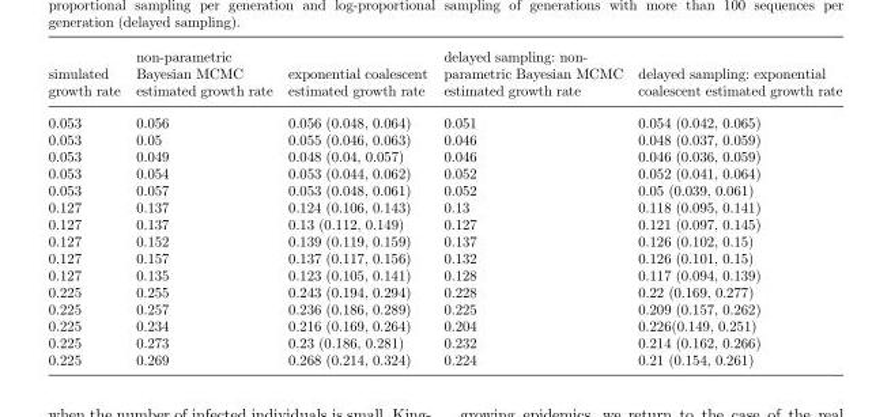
<table><thead><tr><td>simulated growth rate</td><td>non-parametric Bayesian MCMC estimated growth rate</td><td>exponential coalescent estimated growth rate</td><td>delayed sampling: non- parametric Bayesian MCMC estimated growth rate</td><td>delayed sampling: exponential coalescent estimated growth rate</td></tr></thead><tbody><tr><td>0.053</td><td>0.056</td><td>0.056 (0.048, 0.064)</td><td>0.051</td><td>0.054 (0.042, 0.065)</td></tr><tr><td>0.053</td><td>0.05</td><td>0.055 (0.046, 0.063)</td><td>0.046</td><td>0.048 (0.037, 0.059)</td></tr><tr><td>0.053</td><td>0.049</td><td>0.048 (0.04, 0.057)</td><td>0.046</td><td>0.046 (0.036, 0.059)</td></tr><tr><td>0.053</td><td>0.054</td><td>0.053 (0.044, 0.062)</td><td>0.052</td><td>0.052 (0.041, 0.064)</td></tr><tr><td>0.053</td><td>0.057</td><td>0.053 (0.048, 0.061)</td><td>0.052</td><td>0.05 (0.039, 0.061)</td></tr><tr><td>0.127</td><td>0.137</td><td>0.124 (0.106, 0.143)</td><td>0.13</td><td>0.118 (0.095, 0.141)</td></tr><tr><td>0.127</td><td>0.137</td><td>0.13 (0.112, 0.149)</td><td>0.127</td><td>0.121 (0.097, 0.145)</td></tr><tr><td>0.127</td><td>0.152</td><td>0.139 (0.119, 0.159)</td><td>0.137</td><td>0.126 (0.102, 0.15)</td></tr><tr><td>0.127</td><td>0.157</td><td>0.137 (0.117, 0.156)</td><td>0.132</td><td>0.126 (0.101, 0.15)</td></tr><tr><td>0.127</td><td>0.135</td><td>0.123 (0.105, 0.141)</td><td>0.128</td><td>0.117 (0.094, 0.139)</td></tr><tr><td>0.225</td><td>0.255</td><td>0.243 (0.194, 0.294)</td><td>0.228</td><td>0.22 (0.169, 0.277)</td></tr><tr><td>0.225</td><td>0.257</td><td>0.236 (0.186, 0.289)</td><td>0.225</td><td>0.209 (0.157, 0.262)</td></tr><tr><td>0.225</td><td>0.234</td><td>0.216 (0.169, 0.264)</td><td>0.204</td><td>0.226(0.149, 0.251)</td></tr><tr><td>0.225</td><td>0.273</td><td>0.23 (0.186, 0.281)</td><td>0.232</td><td>0.214 (0.162, 0.266)</td></tr><tr><td>0.225</td><td>0.269</td><td>0.268 (0.214, 0.324)</td><td>0.224</td><td>0.21 (0.154, 0.261)</td></tr></tbody></table>